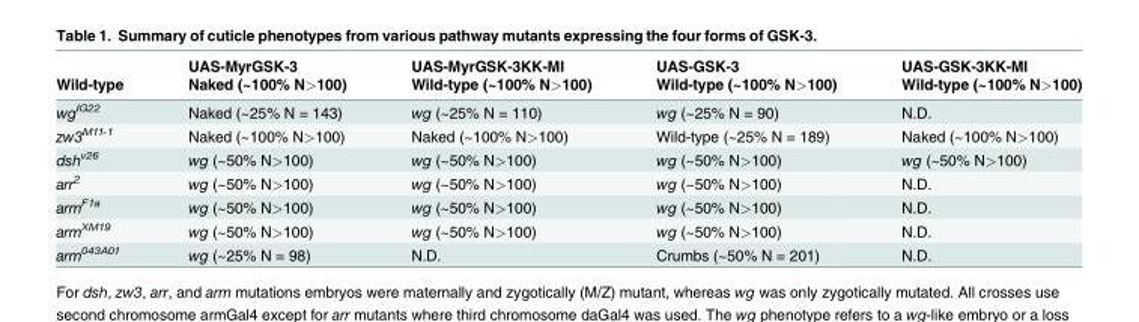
<table><thead><tr><td rowspan="2">Wild-type</td><td rowspan="2">UAS-MyrGSK-3 Naked (~100% N&gt;100)</td><td rowspan="2">UAS-MyrGSK-3KK-MI Wild-type (~100% N&gt;100)</td><td rowspan="2">UAS-GSK-3 Wild-type (~100% N&gt;100)</td><td rowspan="2">UAS-GSK-3KK-MI Wild-type (~100% N&gt;100)</td></tr><tr></tr></thead><tbody><tr><td>wg<sup>IG22</sup></td><td>Naked (~25% N = 143)</td><td>wg (~25% N = 110)</td><td>wg (~25% N = 90)</td><td>N.D.</td></tr><tr><td>zw3<sup>M11-1</sup></td><td>Naked (~100% N&gt;100)</td><td>Naked (~100% N&gt;100)</td><td>Wild-type (~25% N = 189)</td><td>Naked (~100% N&gt;100)</td></tr><tr><td>dsh<sup>v26</sup></td><td>wg (~50% N&gt;100)</td><td>wg (~50% N&gt;100)</td><td>wg (~50% N&gt;100)</td><td>wg (~50% N&gt;100)</td></tr><tr><td>arr<sup>2</sup></td><td>wg (~50% N&gt;100)</td><td>wg (~50% N&gt;100)</td><td>wg (~50% N&gt;100)</td><td>N.D.</td></tr><tr><td>arm<sup>F1a</sup></td><td>wg (~50% N&gt;100)</td><td>wg (~50% N&gt;100)</td><td>wg (~50% N&gt;100)</td><td>N.D.</td></tr><tr><td>arm<sup>XM19</sup></td><td>wg (~50% N&gt;100)</td><td>wg (~50% N&gt;100)</td><td>wg (~50% N&gt;100)</td><td>N.D.</td></tr><tr><td>arm<sup>043A01</sup></td><td>wg (~25% N = 98)</td><td>N.D.</td><td>Crumbs (~50% N = 201)</td><td>N.D.</td></tr></tbody></table>